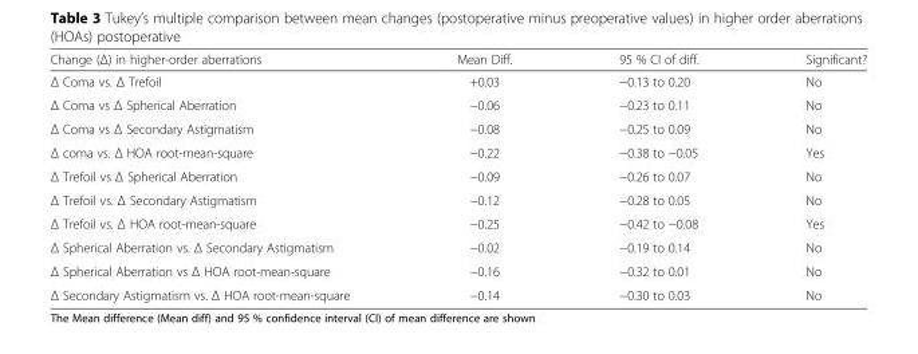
<table><thead><tr><td>Change (Δ) in higher-order aberrations</td><td>Mean Diff.</td><td>95 % CI of diff.</td><td>Significant?</td></tr></thead><tbody><tr><td>Δ Coma vs. Δ Trefoil</td><td>+0.03</td><td>−0.13 to 0.20</td><td>No</td></tr><tr><td>Δ Coma vs Δ Spherical Aberration</td><td>−0.06</td><td>−0.23 to 0.11</td><td>No</td></tr><tr><td>Δ Coma vs Δ Secondary Astigmatism</td><td>−0.08</td><td>−0.25 to 0.09</td><td>No</td></tr><tr><td>Δ coma vs. Δ HOA root-mean-square</td><td>−0.22</td><td>−0.38 to −0.05</td><td>Yes</td></tr><tr><td>Δ Trefoil vs Δ Spherical Aberration</td><td>−0.09</td><td>−0.26 to 0.07</td><td>No</td></tr><tr><td>Δ Trefoil vs. Δ Secondary Astigmatism</td><td>−0.12</td><td>−0.28 to 0.05</td><td>No</td></tr><tr><td>Δ Trefoil vs. Δ HOA root-mean-square</td><td>−0.25</td><td>−0.42 to −0.08</td><td>Yes</td></tr><tr><td>Δ Spherical Aberration vs. Δ Secondary Astigmatism</td><td>−0.02</td><td>−0.19 to 0.14</td><td>No</td></tr><tr><td>Δ Spherical Aberration vs Δ HOA root-mean-square</td><td>−0.16</td><td>−0.32 to 0.01</td><td>No</td></tr><tr><td>Δ Secondary Astigmatism vs. Δ HOA root-mean-square</td><td>−0.14</td><td>−0.30 to 0.03</td><td>No</td></tr></tbody></table>